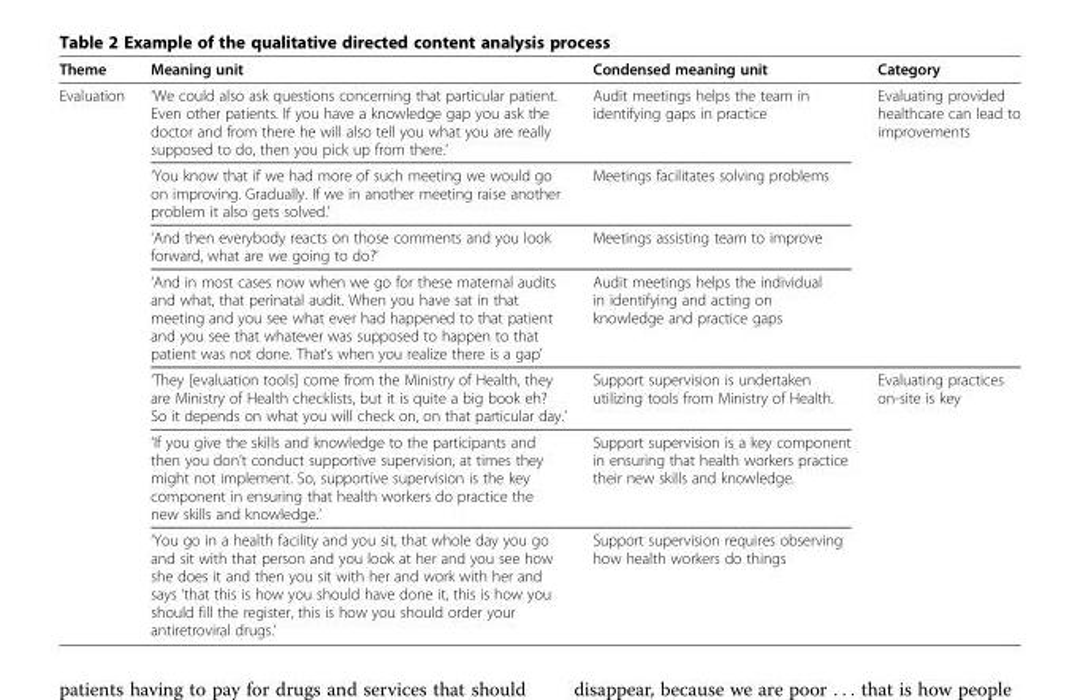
<table><thead><tr><td>Theme</td><td>Meaning unit</td><td>Condensed meaning unit</td><td>Category</td></tr></thead><tbody><tr><td rowspan="7">Evaluation</td><td>‘We could also ask questions concerning that particular patient. Even other patients. If you have a knowledge gap you ask the doctor and from there he will also tell you what you are really supposed to do, then you pick up from there.’</td><td>Audit meetings helps the team in identifying gaps in practice</td><td>Evaluating provided healthcare can lead to improvements</td></tr><tr><td>‘You know that if we had more of such meeting we would go on improving. Gradually. If we in another meeting raise another problem it also gets solved.’</td><td>Meetings facilitates solving problems</td><td></td></tr><tr><td>‘And then everybody reacts on those comments and you look forward, what are we going to do?’</td><td>Meetings assisting team to improve</td><td></td></tr><tr><td>‘And in most cases now when we go for these maternal audits and what, that perinatal audit. When you have sat in that meeting and you see what ever had happened to that patient and you see that whatever was supposed to happen to that patient was not done. That’s when you realize there is a gap’</td><td>Audit meetings helps the individual in identifying and acting on knowledge and practice gaps</td><td></td></tr><tr><td>‘They [evaluation tools] come from the Ministry of Health, they are Ministry of Health checklists, but it is quite a big book eh? So it depends on what you will check on, on that particular day.’</td><td>Support supervision is undertaken utilizing tools from Ministry of Health.</td><td>Evaluating practices on-site is key</td></tr><tr><td>‘If you give the skills and knowledge to the participants and then you don’t conduct supportive supervision, at times they might not implement. So, supportive supervision is the key component in ensuring that health workers do practice the new skills and knowledge.’</td><td>Support supervision is a key component in ensuring that health workers practice their new skills and knowledge.</td><td></td></tr><tr><td>‘You go in a health facility and you sit, that whole day you go and sit with that person and you look at her and you see how she does it and then you sit with her and work with her and says ‘that this is how you should have done it, this is how you should fill the register, this is how you should order your antiretroviral drugs.’</td><td>Support supervision requires observing how health workers do things</td><td></td></tr></tbody></table>